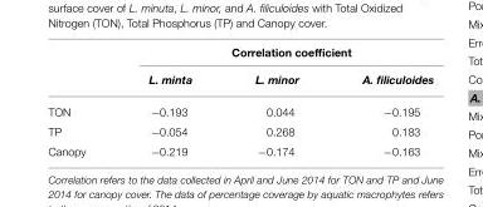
<table><thead><tr><td rowspan="2"></td><td colspan="3">Correlation coefficient</td></tr><tr><td>L. minta</td><td>L. minor</td><td>A. filiculoides</td></tr></thead><tbody><tr><td>TON</td><td>−0.193</td><td>0.044</td><td>−0.195</td></tr><tr><td>TP</td><td>−0.054</td><td>0.268</td><td>0.183</td></tr><tr><td>Canopy</td><td>−0.219</td><td>−0.174</td><td>−0.163</td></tr></tbody></table>